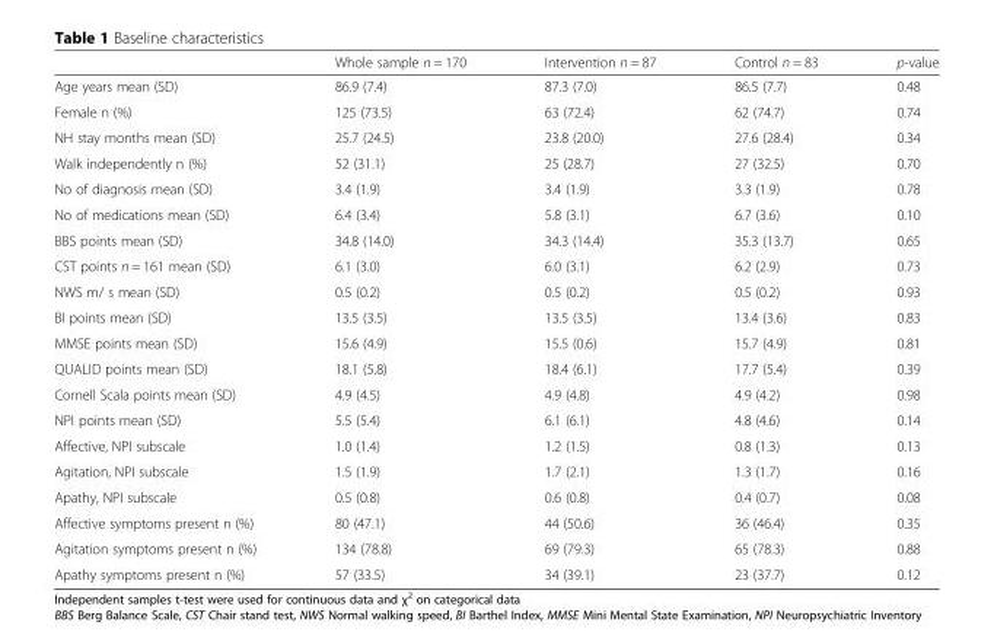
<table><thead><tr><td></td><td>Whole sample n = 170</td><td>Intervention n = 87</td><td>Control n = 83</td><td>p-value</td></tr></thead><tbody><tr><td>Age years mean (SD)</td><td>86.9 (7.4)</td><td>87.3 (7.0)</td><td>86.5 (7.7)</td><td>0.48</td></tr><tr><td>Female n (%)</td><td>125 (73.5)</td><td>63 (72.4)</td><td>62 (74.7)</td><td>0.74</td></tr><tr><td>NH stay months mean (SD)</td><td>25.7 (24.5)</td><td>23.8 (20.0)</td><td>27.6 (28.4)</td><td>0.34</td></tr><tr><td>Walk independently n (%)</td><td>52 (31.1)</td><td>25 (28.7)</td><td>27 (32.5)</td><td>0.70</td></tr><tr><td>No of diagnosis mean (SD)</td><td>3.4 (1.9)</td><td>3.4 (1.9)</td><td>3.3 (1.9)</td><td>0.78</td></tr><tr><td>No of medications mean (SD)</td><td>6.4 (3.4)</td><td>5.8 (3.1)</td><td>6.7 (3.6)</td><td>0.10</td></tr><tr><td>BBS points mean (SD)</td><td>34.8 (14.0)</td><td>34.3 (14.4)</td><td>35.3 (13.7)</td><td>0.65</td></tr><tr><td>CST points n = 161 mean (SD)</td><td>6.1 (3.0)</td><td>6.0 (3.1)</td><td>6.2 (2.9)</td><td>0.73</td></tr><tr><td>NWS m/ s mean (SD)</td><td>0.5 (0.2)</td><td>0.5 (0.2)</td><td>0.5 (0.2)</td><td>0.93</td></tr><tr><td>BI points mean (SD)</td><td>13.5 (3.5)</td><td>13.5 (3.5)</td><td>13.4 (3.6)</td><td>0.83</td></tr><tr><td>MMSE points mean (SD)</td><td>15.6 (4.9)</td><td>15.5 (0.6)</td><td>15.7 (4.9)</td><td>0.81</td></tr><tr><td>QUALID points mean (SD)</td><td>18.1 (5.8)</td><td>18.4 (6.1)</td><td>17.7 (5.4)</td><td>0.39</td></tr><tr><td>Cornell Scala points mean (SD)</td><td>4.9 (4.5)</td><td>4.9 (4.8)</td><td>4.9 (4.2)</td><td>0.98</td></tr><tr><td>NPI points mean (SD)</td><td>5.5 (5.4)</td><td>6.1 (6.1)</td><td>4.8 (4.6)</td><td>0.14</td></tr><tr><td>Affective, NPI subscale</td><td>1.0 (1.4)</td><td>1.2 (1.5)</td><td>0.8 (1.3)</td><td>0.13</td></tr><tr><td>Agitation, NPI subscale</td><td>1.5 (1.9)</td><td>1.7 (2.1)</td><td>1.3 (1.7)</td><td>0.16</td></tr><tr><td>Apathy, NPI subscale</td><td>0.5 (0.8)</td><td>0.6 (0.8)</td><td>0.4 (0.7)</td><td>0.08</td></tr><tr><td>Affective symptoms present n (%)</td><td>80 (47.1)</td><td>44 (50.6)</td><td>36 (46.4)</td><td>0.35</td></tr><tr><td>Agitation symptoms present n (%)</td><td>134 (78.8)</td><td>69 (79.3)</td><td>65 (78.3)</td><td>0.88</td></tr><tr><td>Apathy symptoms present n (%)</td><td>57 (33.5)</td><td>34 (39.1)</td><td>23 (37.7)</td><td>0.12</td></tr></tbody></table>